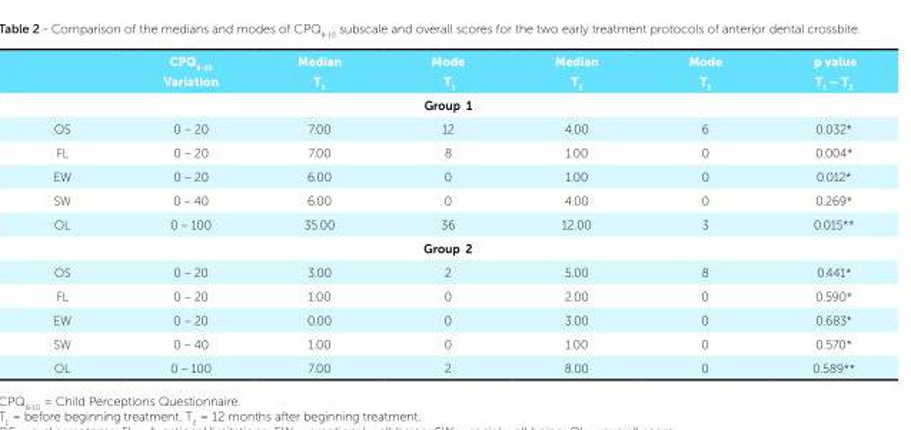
<table><thead><tr><td></td><td>CPQ<sub>8-10</sub> Variation</td><td>Median T<sub>1</sub></td><td>Mode T<sub>1</sub></td><td>Median T<sub>2</sub></td><td>Mode T<sub>2</sub></td><td>p value T<sub>1</sub> – T<sub>2</sub></td></tr></thead><tbody><tr><td colspan="7">Group 1</td></tr><tr><td>OS</td><td>0 – 20</td><td>7.00</td><td>12</td><td>4.00</td><td>6</td><td>0.032*</td></tr><tr><td>FL</td><td>0 – 20</td><td>7.00</td><td>8</td><td>1.00</td><td>0</td><td>0.004*</td></tr><tr><td>EW</td><td>0 – 20</td><td>6.00</td><td>0</td><td>1.00</td><td>0</td><td>0.012*</td></tr><tr><td>SW</td><td>0 – 40</td><td>6.00</td><td>0</td><td>4.00</td><td>0</td><td>0.269*</td></tr><tr><td>OL</td><td>0 – 100</td><td>35.00</td><td>36</td><td>12.00</td><td>3</td><td>0.015**</td></tr><tr><td colspan="7">Group 2</td></tr><tr><td>OS</td><td>0 – 20</td><td>3.00</td><td>2</td><td>5.00</td><td>8</td><td>0.441*</td></tr><tr><td>FL</td><td>0 – 20</td><td>1.00</td><td>0</td><td>2.00</td><td>0</td><td>0.590*</td></tr><tr><td>EW</td><td>0 – 20</td><td>0.00</td><td>0</td><td>3.00</td><td>0</td><td>0.683*</td></tr><tr><td>SW</td><td>0 – 40</td><td>1.00</td><td>0</td><td>1.00</td><td>0</td><td>0.570*</td></tr><tr><td>OL</td><td>0 – 100</td><td>7.00</td><td>2</td><td>8.00</td><td>0</td><td>0.589**</td></tr></tbody></table>